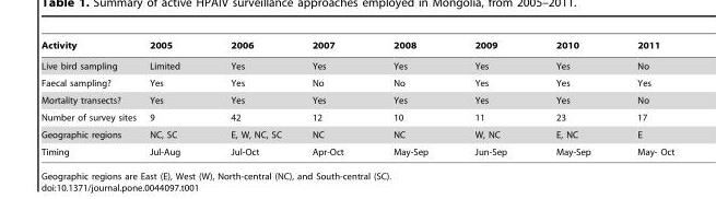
<table><thead><tr><td>Activity</td><td>2005</td><td>2006</td><td>2007</td><td>2008</td><td>2009</td><td>2010</td><td>2011</td></tr></thead><tbody><tr><td>Live bird sampling</td><td>Limited</td><td>Yes</td><td>Yes</td><td>Yes</td><td>Yes</td><td>Yes</td><td>No</td></tr><tr><td>Faecal sampling?</td><td>Yes</td><td>Yes</td><td>No</td><td>No</td><td>Yes</td><td>Yes</td><td>Yes</td></tr><tr><td>Mortality transects?</td><td>Yes</td><td>Yes</td><td>Yes</td><td>Yes</td><td>Yes</td><td>Yes</td><td>No</td></tr><tr><td>Number of survey sites</td><td>9</td><td>42</td><td>12</td><td>10</td><td>11</td><td>23</td><td>17</td></tr><tr><td>Geographic regions</td><td>NC, SC</td><td>E, W, NC, SC</td><td>NC</td><td>NC</td><td>W, NC</td><td>E, NC</td><td>E</td></tr><tr><td>Timing</td><td>Jul-Aug</td><td>Jul-Oct</td><td>Apr-Oct</td><td>May-Sep</td><td>Jun-Sep</td><td>May-Sep</td><td>May- Oct</td></tr></tbody></table>